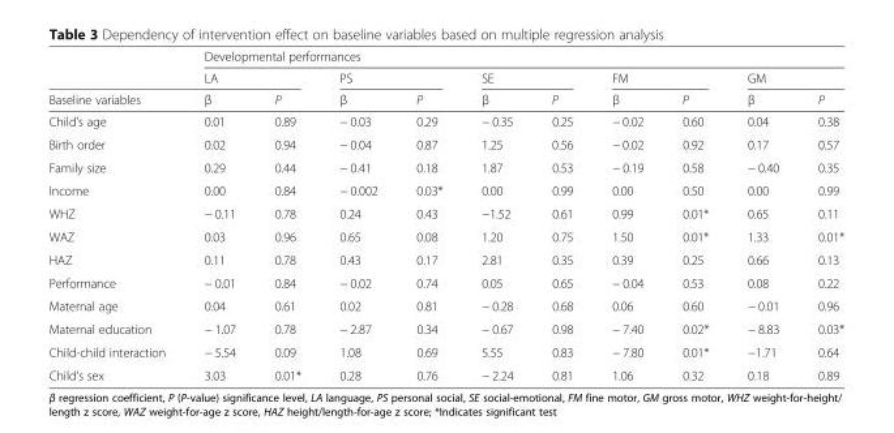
<table><thead><tr><td rowspan="3">Baseline variables</td><td colspan="10">Developmental performances</td></tr><tr><td colspan="2">LA</td><td colspan="2">PS</td><td colspan="2">SE</td><td colspan="2">FM</td><td colspan="2">GM</td></tr><tr><td>β</td><td>P</td><td>β</td><td>P</td><td>β</td><td>P</td><td>β</td><td>P</td><td>β</td><td>P</td></tr></thead><tbody><tr><td>Child’s age</td><td>0.01</td><td>0.89</td><td>− 0.03</td><td>0.29</td><td>− 0.35</td><td>0.25</td><td>− 0.02</td><td>0.60</td><td>0.04</td><td>0.38</td></tr><tr><td>Birth order</td><td>0.02</td><td>0.94</td><td>− 0.04</td><td>0.87</td><td>1.25</td><td>0.56</td><td>− 0.02</td><td>0.92</td><td>0.17</td><td>0.57</td></tr><tr><td>Family size</td><td>0.29</td><td>0.44</td><td>− 0.41</td><td>0.18</td><td>1.87</td><td>0.53</td><td>− 0.19</td><td>0.58</td><td>− 0.40</td><td>0.35</td></tr><tr><td>Income</td><td>0.00</td><td>0.84</td><td>− 0.002</td><td>0.03*</td><td>0.00</td><td>0.99</td><td>0.00</td><td>0.50</td><td>0.00</td><td>0.99</td></tr><tr><td>WHZ</td><td>− 0.11</td><td>0.78</td><td>0.24</td><td>0.43</td><td>−1.52</td><td>0.61</td><td>0.99</td><td>0.01*</td><td>0.65</td><td>0.11</td></tr><tr><td>WAZ</td><td>0.03</td><td>0.96</td><td>0.65</td><td>0.08</td><td>1.20</td><td>0.75</td><td>1.50</td><td>0.01*</td><td>1.33</td><td>0.01*</td></tr><tr><td>HAZ</td><td>0.11</td><td>0.78</td><td>0.43</td><td>0.17</td><td>2.81</td><td>0.35</td><td>0.39</td><td>0.25</td><td>0.66</td><td>0.13</td></tr><tr><td>Performance</td><td>− 0.01</td><td>0.84</td><td>− 0.02</td><td>0.74</td><td>0.05</td><td>0.65</td><td>− 0.04</td><td>0.53</td><td>0.08</td><td>0.22</td></tr><tr><td>Maternal age</td><td>0.04</td><td>0.61</td><td>0.02</td><td>0.81</td><td>− 0.28</td><td>0.68</td><td>0.06</td><td>0.60</td><td>− 0.01</td><td>0.96</td></tr><tr><td>Maternal education</td><td>− 1.07</td><td>0.78</td><td>− 2.87</td><td>0.34</td><td>− 0.67</td><td>0.98</td><td>− 7.40</td><td>0.02*</td><td>− 8.83</td><td>0.03*</td></tr><tr><td>Child-child interaction</td><td>− 5.54</td><td>0.09</td><td>1.08</td><td>0.69</td><td>5.55</td><td>0.83</td><td>− 7.80</td><td>0.01*</td><td>−1.71</td><td>0.64</td></tr><tr><td>Child’s sex</td><td>3.03</td><td>0.01*</td><td>0.28</td><td>0.76</td><td>− 2.24</td><td>0.81</td><td>1.06</td><td>0.32</td><td>0.18</td><td>0.89</td></tr></tbody></table>